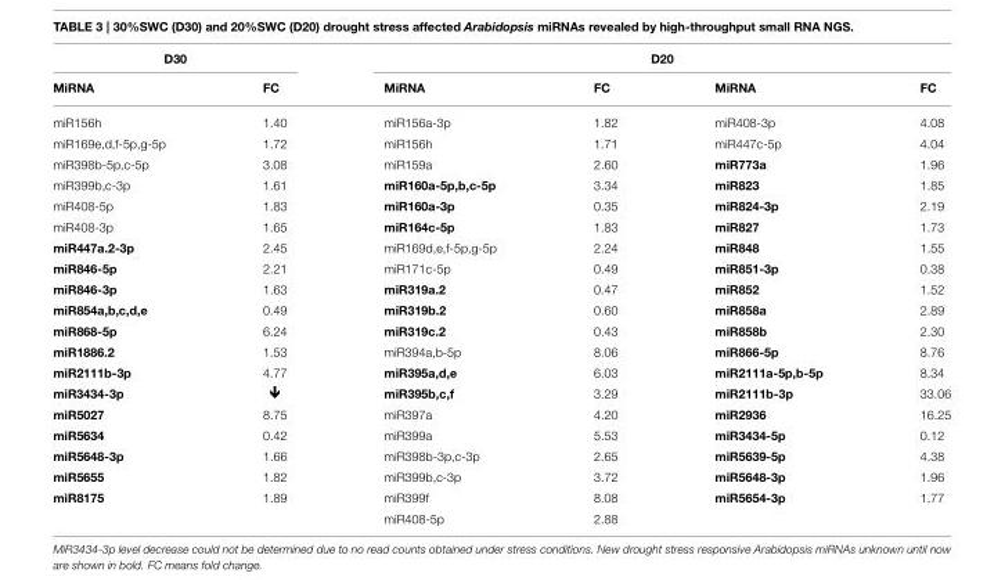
<table><thead><tr><td colspan="2">D30</td><td colspan="4">D20</td></tr><tr><td>MiRNA</td><td>FC</td><td>MiRNA</td><td>FC</td><td>MiRNA</td><td>FC</td></tr></thead><tbody><tr><td>miR156h</td><td>1.40</td><td>miR156a-3p</td><td>1.82</td><td>miR408-3p</td><td>4.08</td></tr><tr><td>miR169e,d,f-5p,g-5p</td><td>1.72</td><td>miR156h</td><td>1.71</td><td>miR447c-5p</td><td>4.04</td></tr><tr><td>miR398b-5p,c-5p</td><td>3.08</td><td>miR159a</td><td>2.60</td><td>miR773a</td><td>1.96</td></tr><tr><td>miR399b,c-3p</td><td>1.61</td><td>miR160a-5p,b,c-5p</td><td>3.34</td><td>miR823</td><td>1.85</td></tr><tr><td>miR408-5p</td><td>1.83</td><td>miR160a-3p</td><td>0.35</td><td>miR824-3p</td><td>2.19</td></tr><tr><td>miR408-3p</td><td>1.65</td><td>miR164c-5p</td><td>1.83</td><td>miR827</td><td>1.73</td></tr><tr><td>miR447a.2-3p</td><td>2.45</td><td>miR169d,e,f-5p,g-5p</td><td>2.24</td><td>miR848</td><td>1.55</td></tr><tr><td>miR846-5p</td><td>2.21</td><td>miR171c-5p</td><td>0.49</td><td>miR851-3p</td><td>0.38</td></tr><tr><td>miR846-3p</td><td>1.63</td><td>miR319a.2</td><td>0.47</td><td>miR852</td><td>1.52</td></tr><tr><td>miR854a,b,c,d,e</td><td>0.49</td><td>miR319b.2</td><td>0.60</td><td>miR858a</td><td>2.89</td></tr><tr><td>miR868-5p</td><td>6.24</td><td>miR319c.2</td><td>0.43</td><td>miR858b</td><td>2.30</td></tr><tr><td>miR1886.2</td><td>1.53</td><td>miR394a,b-5p</td><td>8.06</td><td>miR866-5p</td><td>8.76</td></tr><tr><td>miR2111b-3p</td><td>4.77</td><td>miR395a,d,e</td><td>6.03</td><td>miR2111a-5p,b-5p</td><td>8.34</td></tr><tr><td>miR3434-3p</td><td></td><td>miR395b,c,f</td><td>3.29</td><td>miR2111b-3p</td><td>33.06</td></tr><tr><td>miR5027</td><td>8.75</td><td>miR397a</td><td>4.20</td><td>miR2936</td><td>16.25</td></tr><tr><td>miR5634</td><td>0.42</td><td>miR399a</td><td>5.53</td><td>miR3434-5p</td><td>0.12</td></tr><tr><td>miR5648-3p</td><td>1.66</td><td>miR398b-3p,c-3p</td><td>2.65</td><td>miR5639-5p</td><td>4.38</td></tr><tr><td>miR5655</td><td>1.82</td><td>miR399b,c-3p</td><td>3.72</td><td>miR5648-3p</td><td>1.96</td></tr><tr><td rowspan="2">miR8175</td><td>1.89</td><td>miR399f</td><td>8.08</td><td>miR5654-3p</td><td>1.77</td></tr><tr><td></td><td>miR408-5p</td><td>2.88</td><td></td><td></td></tr></tbody></table>